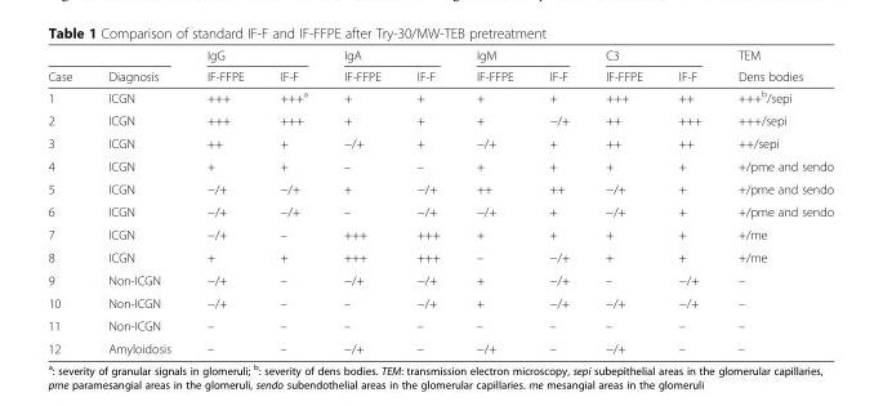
<table><thead><tr><td rowspan="2">Case</td><td rowspan="2">Diagnosis</td><td colspan="2">IgG</td><td colspan="2">IgA</td><td colspan="2">IgM</td><td colspan="2">C3</td><td rowspan="2">TEM Dens bodies</td></tr><tr><td>IF-FFPE</td><td>IF-F</td><td>IF-FFPE</td><td>IF-F</td><td>IF-FFPE</td><td>IF-F</td><td>IF-FFPE</td><td>IF-F</td></tr></thead><tbody><tr><td>1</td><td>ICGN</td><td>+++</td><td>+++<sup>a</sup></td><td>+</td><td>+</td><td>+</td><td>+</td><td>+++</td><td>++</td><td>+++<sup>b</sup>/sepi</td></tr><tr><td>2</td><td>ICGN</td><td>+++</td><td>+++</td><td>+</td><td>+</td><td>+</td><td>−/+</td><td>++</td><td>+++</td><td>+++/sepi</td></tr><tr><td>3</td><td>ICGN</td><td>++</td><td>+</td><td>−/+</td><td>+</td><td>−/+</td><td>+</td><td>++</td><td>++</td><td>++/sepi</td></tr><tr><td>4</td><td>ICGN</td><td>+</td><td>+</td><td>–</td><td>–</td><td>+</td><td>+</td><td>+</td><td>+</td><td>+/pme and sendo</td></tr><tr><td>5</td><td>ICGN</td><td>−/+</td><td>−/+</td><td>+</td><td>−/+</td><td>++</td><td>++</td><td>−/+</td><td>+</td><td>+/pme and sendo</td></tr><tr><td>6</td><td>ICGN</td><td>−/+</td><td>−/+</td><td>–</td><td>−/+</td><td>−/+</td><td>+</td><td>−/+</td><td>+</td><td>+/pme and sendo</td></tr><tr><td>7</td><td>ICGN</td><td>−/+</td><td>–</td><td>+++</td><td>+++</td><td>+</td><td>+</td><td>+</td><td>+</td><td>+/me</td></tr><tr><td>8</td><td>ICGN</td><td>+</td><td>+</td><td>+++</td><td>+++</td><td>–</td><td>−/+</td><td>+</td><td>+</td><td>+/me</td></tr><tr><td>9</td><td>Non-ICGN</td><td>−/+</td><td>–</td><td>−/+</td><td>−/+</td><td>+</td><td>−/+</td><td>–</td><td>−/+</td><td>–</td></tr><tr><td>10</td><td>Non-ICGN</td><td>−/+</td><td>–</td><td>–</td><td>−/+</td><td>+</td><td>−/+</td><td>−/+</td><td>−/+</td><td>–</td></tr><tr><td>11</td><td>Non-ICGN</td><td>–</td><td>–</td><td>–</td><td>–</td><td>–</td><td>–</td><td>–</td><td>–</td><td>–</td></tr><tr><td>12</td><td>Amyloidosis</td><td>–</td><td>–</td><td>−/+</td><td>–</td><td>−/+</td><td>–</td><td>−/+</td><td>–</td><td>–</td></tr></tbody></table>